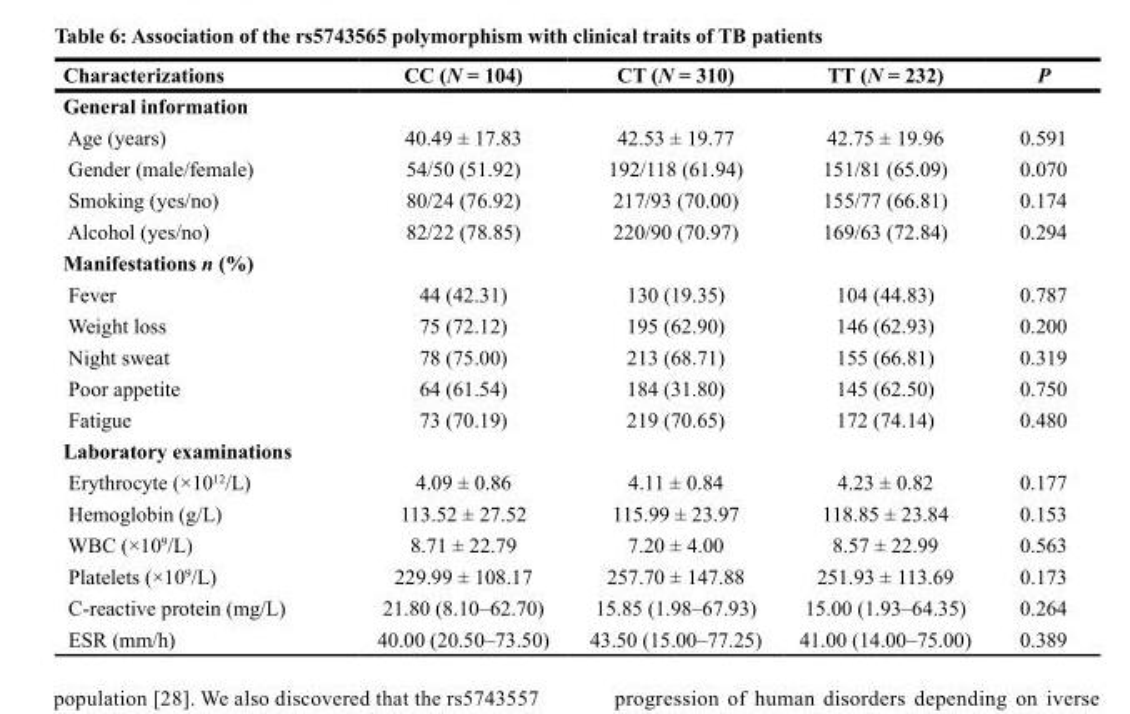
<table><thead><tr><td>Characterizations</td><td>CC (N = 104)</td><td>CT (N = 310)</td><td>TT (N = 232)</td><td>P</td></tr></thead><tbody><tr><td colspan="5">General information</td></tr><tr><td>Age (years)</td><td>40.49 ± 17.83</td><td>42.53 ± 19.77</td><td>42.75 ± 19.96</td><td>0.591</td></tr><tr><td>Gender (male/female)</td><td>54/50 (51.92)</td><td>192/118 (61.94)</td><td>151/81 (65.09)</td><td>0.070</td></tr><tr><td>Smoking (yes/no)</td><td>80/24 (76.92)</td><td>217/93 (70.00)</td><td>155/77 (66.81)</td><td>0.174</td></tr><tr><td>Alcohol (yes/no)</td><td>82/22 (78.85)</td><td>220/90 (70.97)</td><td>169/63 (72.84)</td><td>0.294</td></tr><tr><td colspan="5">Manifestations n (%)</td></tr><tr><td>Fever</td><td>44 (42.31)</td><td>130 (19.35)</td><td>104 (44.83)</td><td>0.787</td></tr><tr><td>Weight loss</td><td>75 (72.12)</td><td>195 (62.90)</td><td>146 (62.93)</td><td>0.200</td></tr><tr><td>Night sweat</td><td>78 (75.00)</td><td>213 (68.71)</td><td>155 (66.81)</td><td>0.319</td></tr><tr><td>Poor appetite</td><td>64 (61.54)</td><td>184 (31.80)</td><td>145 (62.50)</td><td>0.750</td></tr><tr><td>Fatigue</td><td>73 (70.19)</td><td>219 (70.65)</td><td>172 (74.14)</td><td>0.480</td></tr><tr><td colspan="5">Laboratory examinations</td></tr><tr><td>Erythrocyte (×10<sup>12</sup>/L)</td><td>4.09 ± 0.86</td><td>4.11 ± 0.84</td><td>4.23 ± 0.82</td><td>0.177</td></tr><tr><td>Hemoglobin (g/L)</td><td>113.52 ± 27.52</td><td>115.99 ± 23.97</td><td>118.85 ± 23.84</td><td>0.153</td></tr><tr><td>WBC (×10<sup>9</sup>/L)</td><td>8.71 ± 22.79</td><td>7.20 ± 4.00</td><td>8.57 ± 22.99</td><td>0.563</td></tr><tr><td>Platelets (×10<sup>9</sup>/L)</td><td>229.99 ± 108.17</td><td>257.70 ± 147.88</td><td>251.93 ± 113.69</td><td>0.173</td></tr><tr><td>C-reactive protein (mg/L)</td><td>21.80 (8.10–62.70)</td><td>15.85 (1.98–67.93)</td><td>15.00 (1.93–64.35)</td><td>0.264</td></tr><tr><td>ESR (mm/h)</td><td>40.00 (20.50–73.50)</td><td>43.50 (15.00–77.25)</td><td>41.00 (14.00–75.00)</td><td>0.389</td></tr></tbody></table>